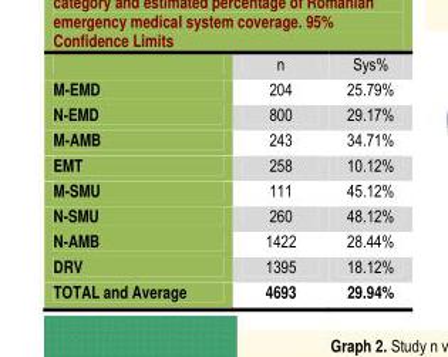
<table><thead><tr><td></td><td>n</td><td>Sys%</td></tr></thead><tbody><tr><td>M-EMD</td><td>204</td><td>25.79%</td></tr><tr><td>N-EMD</td><td>800</td><td>29.17%</td></tr><tr><td>M-AMB</td><td>243</td><td>34.71%</td></tr><tr><td>EMT</td><td>258</td><td>10.12%</td></tr><tr><td>M-SMU</td><td>111</td><td>45.12%</td></tr><tr><td>N-SMU</td><td>260</td><td>48.12%</td></tr><tr><td>N-AMB</td><td>1422</td><td>28.44%</td></tr><tr><td>DRV</td><td>1395</td><td>18.12%</td></tr><tr><td>TOTAL and Average</td><td>4693</td><td>29.94%</td></tr></tbody></table>